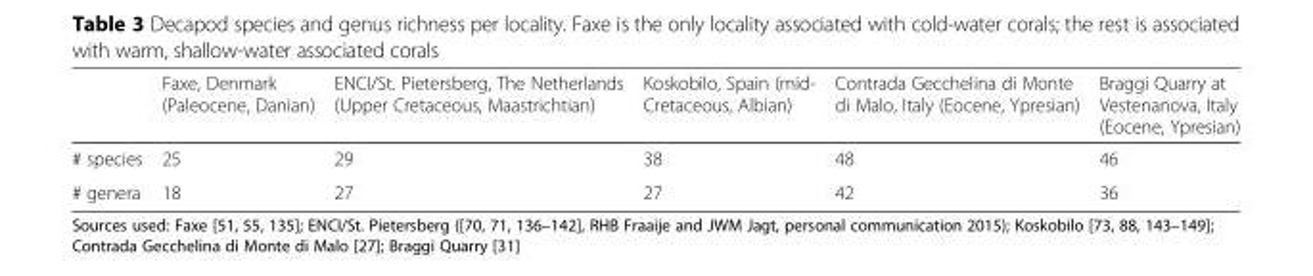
<table><thead><tr><td></td><td>Faxe, Denmark (Paleocene, Danian)</td><td>ENCI/St. Pietersberg, The Netherlands (Upper Cretaceous, Maastrichtian)</td><td>Koskobilo, Spain (mid- Cretaceous, Albian)</td><td>Contrada Gecchelina di Monte di Malo, Italy (Eocene, Ypresian)</td><td>Braggi Quarry at Vestenanova, Italy (Eocene, Ypresian)</td></tr></thead><tbody><tr><td># species</td><td>25</td><td>29</td><td>38</td><td>48</td><td>46</td></tr><tr><td># genera</td><td>18</td><td>27</td><td>27</td><td>42</td><td>36</td></tr></tbody></table>